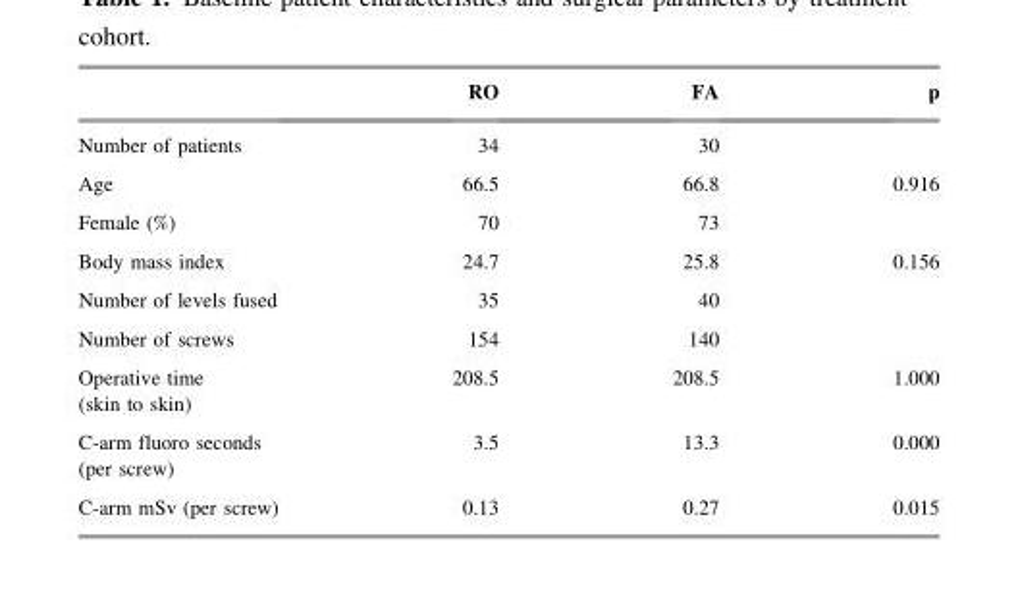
<table><thead><tr><td></td><td>RO</td><td>FA</td><td>p</td></tr></thead><tbody><tr><td>Number of patients</td><td>34</td><td>30</td><td></td></tr><tr><td>Age</td><td>66.5</td><td>66.8</td><td>0.916</td></tr><tr><td>Female (%)</td><td>70</td><td>73</td><td></td></tr><tr><td>Body mass index</td><td>24.7</td><td>25.8</td><td>0.156</td></tr><tr><td>Number of levels fused</td><td>35</td><td>40</td><td></td></tr><tr><td>Number of screws</td><td>154</td><td>140</td><td></td></tr><tr><td>Operative time (skin to skin)</td><td>208.5</td><td>208.5</td><td>1.000</td></tr><tr><td>C-arm fluoro seconds (per screw)</td><td>3.5</td><td>13.3</td><td>0.000</td></tr><tr><td>C-arm mSv (per screw)</td><td>0.13</td><td>0.27</td><td>0.015</td></tr></tbody></table>